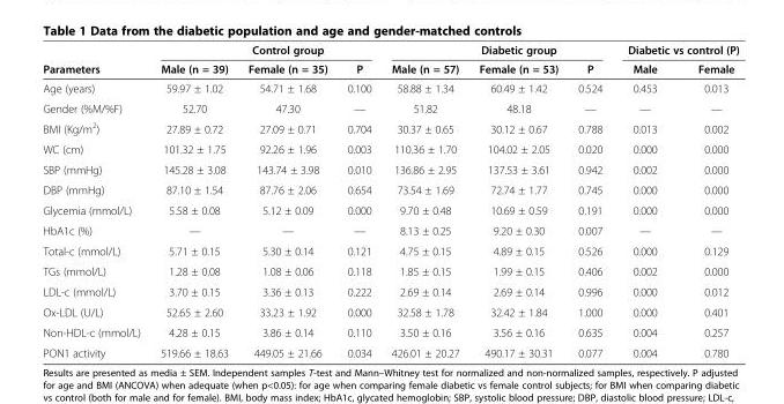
<table><thead><tr><td rowspan="2">Parameters</td><td rowspan="2">Male (n = 39)</td><td rowspan="2">Control group Female (n = 35)</td><td rowspan="2">P</td><td rowspan="2">Male (n = 57)</td><td rowspan="2">Diabetic group Female (n = 53)</td><td rowspan="2">P</td><td colspan="2">Diabetic vs control (P)</td></tr><tr><td>Male</td><td>Female</td></tr></thead><tbody><tr><td>Age (years)</td><td>59.97 ± 1.02</td><td>54.71 ± 1.68</td><td>0.100</td><td>58.88 ± 1.34</td><td>60.49 ± 1.42</td><td>0.524</td><td>0.453</td><td>0.013</td></tr><tr><td>Gender (%M/%F)</td><td>52.70</td><td>47.30</td><td>—</td><td>51.82</td><td>48.18</td><td>—</td><td>—</td><td>—</td></tr><tr><td>BMI (Kg/m<sup>2</sup>)</td><td>27.89 ± 0.72</td><td>27.09 ± 0.71</td><td>0.704</td><td>30.37 ± 0.65</td><td>30.12 ± 0.67</td><td>0.788</td><td>0.013</td><td>0.002</td></tr><tr><td>WC (cm)</td><td>101.32 ± 1.75</td><td>92.26 ± 1.96</td><td>0.003</td><td>110.36 ± 1.70</td><td>104.02 ± 2.05</td><td>0.020</td><td>0.000</td><td>0.000</td></tr><tr><td>SBP (mmHg)</td><td>145.28 ± 3.08</td><td>143.74 ± 3.98</td><td>0.010</td><td>136.86 ± 2.95</td><td>137.53 ± 3.61</td><td>0.942</td><td>0.002</td><td>0.000</td></tr><tr><td>DBP (mmHg)</td><td>87.10 ± 1.54</td><td>87.76 ± 2.06</td><td>0.654</td><td>73.54 ± 1.69</td><td>72.74 ± 1.77</td><td>0.745</td><td>0.000</td><td>0.000</td></tr><tr><td>Glycemia (mmol/L)</td><td>5.58 ± 0.08</td><td>5.12 ± 0.09</td><td>0.000</td><td>9.70 ± 0.48</td><td>10.69 ± 0.59</td><td>0.191</td><td>0.000</td><td>0.000</td></tr><tr><td>HbA1c (%)</td><td>—</td><td>—</td><td>—</td><td>8.13 ± 0.25</td><td>9.20 ± 0.30</td><td>0.007</td><td>—</td><td>—</td></tr><tr><td>Total-c (mmol/L)</td><td>5.71 ± 0.15</td><td>5.30 ± 0.14</td><td>0.121</td><td>4.75 ± 0.15</td><td>4.89 ± 0.15</td><td>0.526</td><td>0.000</td><td>0.129</td></tr><tr><td>TGs (mmol/L)</td><td>1.28 ± 0.08</td><td>1.08 ± 0.06</td><td>0.118</td><td>1.85 ± 0.15</td><td>1.99 ± 0.15</td><td>0.406</td><td>0.002</td><td>0.000</td></tr><tr><td>LDL-c (mmol/L)</td><td>3.70 ± 0.15</td><td>3.36 ± 0.13</td><td>0.222</td><td>2.69 ± 0.14</td><td>2.69 ± 0.14</td><td>0.996</td><td>0.000</td><td>0.012</td></tr><tr><td>Ox-LDL (U/L)</td><td>52.65 ± 2.60</td><td>33.23 ± 1.92</td><td>0.000</td><td>32.58 ± 1.78</td><td>32.42 ± 1.84</td><td>1.000</td><td>0.000</td><td>0.401</td></tr><tr><td>Non-HDL-c (mmol/L)</td><td>4.28 ± 0.15</td><td>3.86 ± 0.14</td><td>0.110</td><td>3.50 ± 0.16</td><td>3.56 ± 0.16</td><td>0.635</td><td>0.004</td><td>0.257</td></tr><tr><td>PON1 activity</td><td>519.66 ± 18.63</td><td>449.05 ± 21.66</td><td>0.034</td><td>426.01 ± 20.27</td><td>490.17 ± 30.31</td><td>0.077</td><td>0.004</td><td>0.780</td></tr></tbody></table>